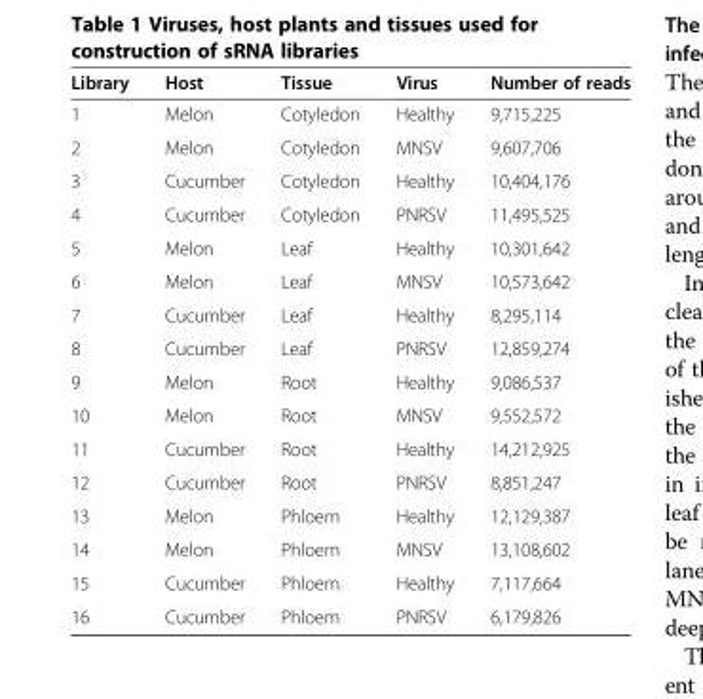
<table><thead><tr><td>Library</td><td>Host</td><td>Tissue</td><td>Virus</td><td>Number of reads</td></tr></thead><tbody><tr><td>1</td><td>Melon</td><td>Cotyledon</td><td>Healthy</td><td>9,715,225</td></tr><tr><td>2</td><td>Melon</td><td>Cotyledon</td><td>MNSV</td><td>9,607,706</td></tr><tr><td>3</td><td>Cucumber</td><td>Cotyledon</td><td>Healthy</td><td>10,404,176</td></tr><tr><td>4</td><td>Cucumber</td><td>Cotyledon</td><td>PNRSV</td><td>11,495,525</td></tr><tr><td>5</td><td>Melon</td><td>Leaf</td><td>Healthy</td><td>10,301,642</td></tr><tr><td>6</td><td>Melon</td><td>Leaf</td><td>MNSV</td><td>10,573,642</td></tr><tr><td>7</td><td>Cucumber</td><td>Leaf</td><td>Healthy</td><td>8,295,114</td></tr><tr><td>8</td><td>Cucumber</td><td>Leaf</td><td>PNRSV</td><td>12,859,274</td></tr><tr><td>9</td><td>Melon</td><td>Root</td><td>Healthy</td><td>9,086,537</td></tr><tr><td>10</td><td>Melon</td><td>Root</td><td>MNSV</td><td>9,552,572</td></tr><tr><td>11</td><td>Cucumber</td><td>Root</td><td>Healthy</td><td>14,212,925</td></tr><tr><td>12</td><td>Cucumber</td><td>Root</td><td>PNRSV</td><td>8,851,247</td></tr><tr><td>13</td><td>Melon</td><td>Phloem</td><td>Healthy</td><td>12,129,387</td></tr><tr><td>14</td><td>Melon</td><td>Phloem</td><td>MNSV</td><td>13,108,602</td></tr><tr><td>15</td><td>Cucumber</td><td>Phloem</td><td>Healthy</td><td>7,117,664</td></tr><tr><td>16</td><td>Cucumber</td><td>Phloem</td><td>PNRSV</td><td>6,179,826</td></tr></tbody></table>